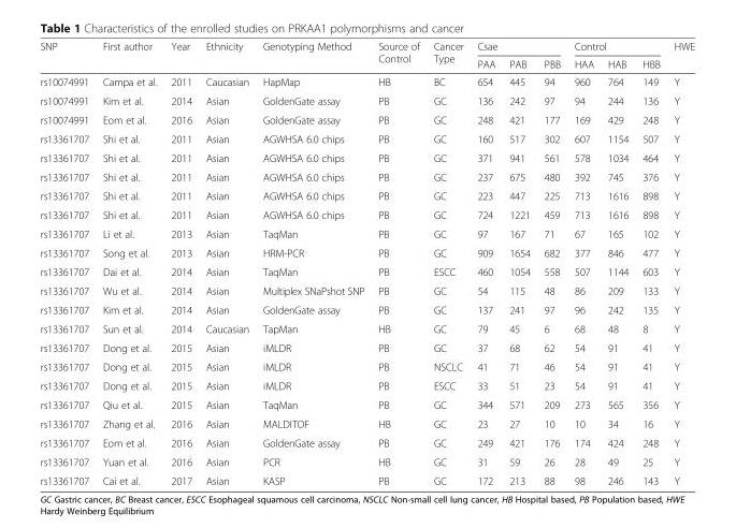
<table><thead><tr><td rowspan="2">SNP</td><td rowspan="2">First author</td><td rowspan="2">Year</td><td rowspan="2">Ethnicity</td><td rowspan="2">Genotyping Method</td><td rowspan="2">Source of Control</td><td rowspan="2">Cancer Type</td><td colspan="3">Csae</td><td colspan="3">Control</td><td rowspan="2">HWE</td></tr><tr><td>PAA</td><td>PAB</td><td>PBB</td><td>HAA</td><td>HAB</td><td>HBB</td></tr></thead><tbody><tr><td>rs10074991</td><td>Campa et al.</td><td>2011</td><td>Caucasian</td><td>HapMap</td><td>HB</td><td>BC</td><td>654</td><td>445</td><td>94</td><td>960</td><td>764</td><td>149</td><td>Y</td></tr><tr><td>rs10074991</td><td>Kim et al.</td><td>2014</td><td>Asian</td><td>GoldenGate assay</td><td>PB</td><td>GC</td><td>136</td><td>242</td><td>97</td><td>94</td><td>244</td><td>136</td><td>Y</td></tr><tr><td>rs10074991</td><td>Eom et al.</td><td>2016</td><td>Asian</td><td>GoldenGate assay</td><td>PB</td><td>GC</td><td>248</td><td>421</td><td>177</td><td>169</td><td>429</td><td>248</td><td>Y</td></tr><tr><td>rs13361707</td><td>Shi et al.</td><td>2011</td><td>Asian</td><td>AGWHSA 6.0 chips</td><td>PB</td><td>GC</td><td>160</td><td>517</td><td>302</td><td>607</td><td>1154</td><td>507</td><td>Y</td></tr><tr><td>rs13361707</td><td>Shi et al.</td><td>2011</td><td>Asian</td><td>AGWHSA 6.0 chips</td><td>PB</td><td>GC</td><td>371</td><td>941</td><td>561</td><td>578</td><td>1034</td><td>464</td><td>Y</td></tr><tr><td>rs13361707</td><td>Shi et al.</td><td>2011</td><td>Asian</td><td>AGWHSA 6.0 chips</td><td>PB</td><td>GC</td><td>237</td><td>675</td><td>480</td><td>392</td><td>745</td><td>376</td><td>Y</td></tr><tr><td>rs13361707</td><td>Shi et al.</td><td>2011</td><td>Asian</td><td>AGWHSA 6.0 chips</td><td>PB</td><td>GC</td><td>223</td><td>447</td><td>225</td><td>713</td><td>1616</td><td>898</td><td>Y</td></tr><tr><td>rs13361707</td><td>Shi et al.</td><td>2011</td><td>Asian</td><td>AGWHSA 6.0 chips</td><td>PB</td><td>GC</td><td>724</td><td>1221</td><td>459</td><td>713</td><td>1616</td><td>898</td><td>Y</td></tr><tr><td>rs13361707</td><td>Li et al.</td><td>2013</td><td>Asian</td><td>TaqMan</td><td>PB</td><td>GC</td><td>97</td><td>167</td><td>71</td><td>67</td><td>165</td><td>102</td><td>Y</td></tr><tr><td>rs13361707</td><td>Song et al.</td><td>2013</td><td>Asian</td><td>HRM-PCR</td><td>PB</td><td>GC</td><td>909</td><td>1654</td><td>682</td><td>377</td><td>846</td><td>477</td><td>Y</td></tr><tr><td>rs13361707</td><td>Dai et al.</td><td>2014</td><td>Asian</td><td>TaqMan</td><td>PB</td><td>ESCC</td><td>460</td><td>1054</td><td>558</td><td>507</td><td>1144</td><td>603</td><td>Y</td></tr><tr><td>rs13361707</td><td>Wu et al.</td><td>2014</td><td>Asian</td><td>Multiplex SNaPshot SNP</td><td>PB</td><td>GC</td><td>54</td><td>115</td><td>48</td><td>86</td><td>209</td><td>133</td><td>Y</td></tr><tr><td>rs13361707</td><td>Kim et al.</td><td>2014</td><td>Asian</td><td>GoldenGate assay</td><td>PB</td><td>GC</td><td>137</td><td>241</td><td>97</td><td>96</td><td>242</td><td>135</td><td>Y</td></tr><tr><td>rs13361707</td><td>Sun et al.</td><td>2014</td><td>Caucasian</td><td>TapMan</td><td>HB</td><td>GC</td><td>79</td><td>45</td><td>6</td><td>68</td><td>48</td><td>8</td><td>Y</td></tr><tr><td>rs13361707</td><td>Dong et al.</td><td>2015</td><td>Asian</td><td>iMLDR</td><td>PB</td><td>GC</td><td>37</td><td>68</td><td>62</td><td>54</td><td>91</td><td>41</td><td>Y</td></tr><tr><td>rs13361707</td><td>Dong et al.</td><td>2015</td><td>Asian</td><td>iMLDR</td><td>PB</td><td>NSCLC</td><td>41</td><td>71</td><td>46</td><td>54</td><td>91</td><td>41</td><td>Y</td></tr><tr><td>rs13361707</td><td>Dong et al.</td><td>2015</td><td>Asian</td><td>iMLDR</td><td>PB</td><td>ESCC</td><td>33</td><td>51</td><td>23</td><td>54</td><td>91</td><td>41</td><td>Y</td></tr><tr><td>rs13361707</td><td>Qiu et al.</td><td>2015</td><td>Asian</td><td>TaqMan</td><td>PB</td><td>GC</td><td>344</td><td>571</td><td>209</td><td>273</td><td>565</td><td>356</td><td>Y</td></tr><tr><td>rs13361707</td><td>Zhang et al.</td><td>2016</td><td>Asian</td><td>MALDITOF</td><td>HB</td><td>GC</td><td>23</td><td>27</td><td>10</td><td>10</td><td>34</td><td>16</td><td>Y</td></tr><tr><td>rs13361707</td><td>Eom et al.</td><td>2016</td><td>Asian</td><td>GoldenGate assay</td><td>PB</td><td>GC</td><td>249</td><td>421</td><td>176</td><td>174</td><td>424</td><td>248</td><td>Y</td></tr><tr><td>rs13361707</td><td>Yuan et al.</td><td>2016</td><td>Asian</td><td>PCR</td><td>HB</td><td>GC</td><td>31</td><td>59</td><td>26</td><td>28</td><td>49</td><td>25</td><td>Y</td></tr><tr><td>rs13361707</td><td>Cai et al.</td><td>2017</td><td>Asian</td><td>KASP</td><td>PB</td><td>GC</td><td>172</td><td>213</td><td>88</td><td>98</td><td>246</td><td>143</td><td>Y</td></tr></tbody></table>